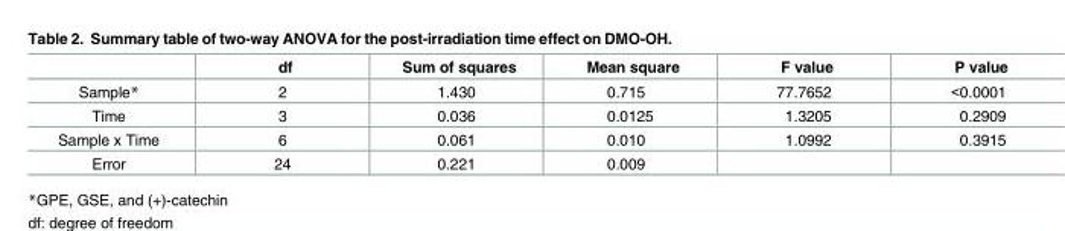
<table><thead><tr><td></td><td>df</td><td>Sum of squares</td><td>Mean square</td><td>F value</td><td>P value</td></tr></thead><tbody><tr><td>Sample*</td><td>2</td><td>1.430</td><td>0.715</td><td>77.7652</td><td>&lt;0.0001</td></tr><tr><td>Time</td><td>3</td><td>0.036</td><td>0.0125</td><td>1.3205</td><td>0.2909</td></tr><tr><td>Sample x Time</td><td>6</td><td>0.061</td><td>0.010</td><td>1.0992</td><td>0.3915</td></tr><tr><td>Error</td><td>24</td><td>0.221</td><td>0.009</td><td></td><td></td></tr></tbody></table>